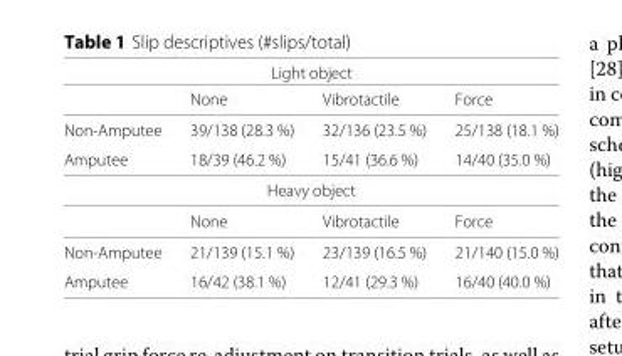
<table><thead><tr><td colspan="4">Light object</td></tr><tr><td></td><td>None</td><td>Vibrotactile</td><td>Force</td></tr></thead><tbody><tr><td>Non-Amputee</td><td>39/138 (28.3 %)</td><td>32/136 (23.5 %)</td><td>25/138 (18.1 %)</td></tr><tr><td>Amputee</td><td>18/39 (46.2 %)</td><td>15/41 (36.6 %)</td><td>14/40 (35.0 %)</td></tr><tr><td colspan="4">Heavy object</td></tr><tr><td></td><td>None</td><td>Vibrotactile</td><td>Force</td></tr><tr><td>Non-Amputee</td><td>21/139 (15.1 %)</td><td>23/139 (16.5 %)</td><td>21/140 (15.0 %)</td></tr><tr><td>Amputee</td><td>16/42 (38.1 %)</td><td>12/41 (29.3 %)</td><td>16/40 (40.0 %)</td></tr></tbody></table>